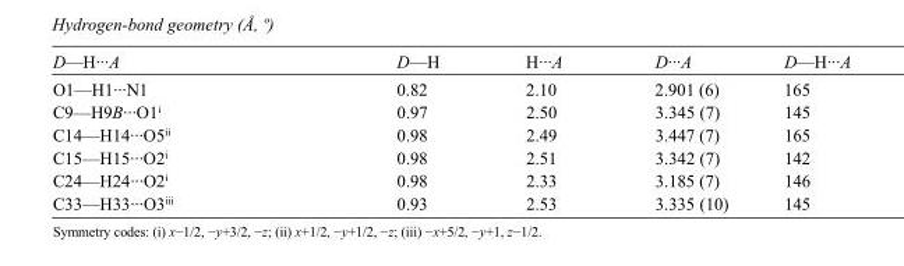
<table><tbody><tr><td>D—H···A</td><td>D—H</td><td>H···A</td><td>D···A</td><td>D—H···A</td></tr><tr><td>O1—H1···N1</td><td>0.82</td><td>2.10</td><td>2.901 (6)</td><td>165</td></tr><tr><td>C9—H9B···O1<sup>i</sup></td><td>0.97</td><td>2.50</td><td>3.345 (7)</td><td>145</td></tr><tr><td>C14—H14···O5<sup>ii</sup></td><td>0.98</td><td>2.49</td><td>3.447 (7)</td><td>165</td></tr><tr><td>C15—H15···O2<sup>i</sup></td><td>0.98</td><td>2.51</td><td>3.342 (7)</td><td>142</td></tr><tr><td>C24—H24···O2<sup>i</sup></td><td>0.98</td><td>2.33</td><td>3.185 (7)</td><td>146</td></tr><tr><td>C33—H33···O3<sup>iii</sup></td><td>0.93</td><td>2.53</td><td>3.335 (10)</td><td>145</td></tr></tbody></table>